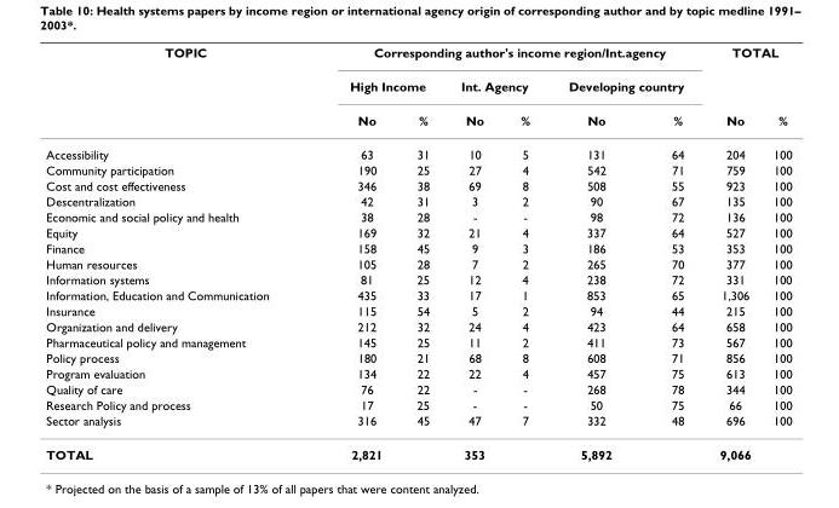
<table><thead><tr><td rowspan="3">TOPIC</td><td colspan="6">Corresponding author&#x27;s income region/Int.agency</td><td colspan="2">TOTAL</td></tr><tr><td colspan="2">High Income</td><td colspan="2">Int. Agency</td><td colspan="2">Developing country</td><td rowspan="2">No</td><td rowspan="2">%</td></tr><tr><td>No</td><td>%</td><td>No</td><td>%</td><td>No</td><td>%</td></tr></thead><tbody><tr><td>Accessibility</td><td>63</td><td>31</td><td>10</td><td>5</td><td>131</td><td>64</td><td>204</td><td>100</td></tr><tr><td>Community participation</td><td>190</td><td>25</td><td>27</td><td>4</td><td>542</td><td>71</td><td>759</td><td>100</td></tr><tr><td>Cost and cost effectiveness</td><td>346</td><td>38</td><td>69</td><td>8</td><td>508</td><td>55</td><td>923</td><td>100</td></tr><tr><td>Descentralization</td><td>42</td><td>31</td><td>3</td><td>2</td><td>90</td><td>67</td><td>135</td><td>100</td></tr><tr><td>Economic and social policy and health</td><td>38</td><td>28</td><td>-</td><td>-</td><td>98</td><td>72</td><td>136</td><td>100</td></tr><tr><td>Equity</td><td>169</td><td>32</td><td>21</td><td>4</td><td>337</td><td>64</td><td>527</td><td>100</td></tr><tr><td>Finance</td><td>158</td><td>45</td><td>9</td><td>3</td><td>186</td><td>53</td><td>353</td><td>100</td></tr><tr><td>Human resources</td><td>105</td><td>28</td><td>7</td><td>2</td><td>265</td><td>70</td><td>377</td><td>100</td></tr><tr><td>Information systems</td><td>81</td><td>25</td><td>12</td><td>4</td><td>238</td><td>72</td><td>331</td><td>100</td></tr><tr><td>Information, Education and Communication</td><td>435</td><td>33</td><td>17</td><td>1</td><td>853</td><td>65</td><td>1,306</td><td>100</td></tr><tr><td>Insurance</td><td>115</td><td>54</td><td>5</td><td>2</td><td>94</td><td>44</td><td>215</td><td>100</td></tr><tr><td>Organization and delivery</td><td>212</td><td>32</td><td>24</td><td>4</td><td>423</td><td>64</td><td>658</td><td>100</td></tr><tr><td>Pharmaceutical policy and management</td><td>145</td><td>25</td><td>11</td><td>2</td><td>411</td><td>73</td><td>567</td><td>100</td></tr><tr><td>Policy process</td><td>180</td><td>21</td><td>68</td><td>8</td><td>608</td><td>71</td><td>856</td><td>100</td></tr><tr><td>Program evaluation</td><td>134</td><td>22</td><td>22</td><td>4</td><td>457</td><td>75</td><td>613</td><td>100</td></tr><tr><td>Quality of care</td><td>76</td><td>22</td><td>-</td><td>-</td><td>268</td><td>78</td><td>344</td><td>100</td></tr><tr><td>Research Policy and process</td><td>17</td><td>25</td><td>-</td><td>-</td><td>50</td><td>75</td><td>66</td><td>100</td></tr><tr><td>Sector analysis</td><td>316</td><td>45</td><td>47</td><td>7</td><td>332</td><td>48</td><td>696</td><td>100</td></tr><tr><td>TOTAL</td><td>2,821</td><td></td><td>353</td><td></td><td>5,892</td><td></td><td>9,066</td><td></td></tr></tbody></table>